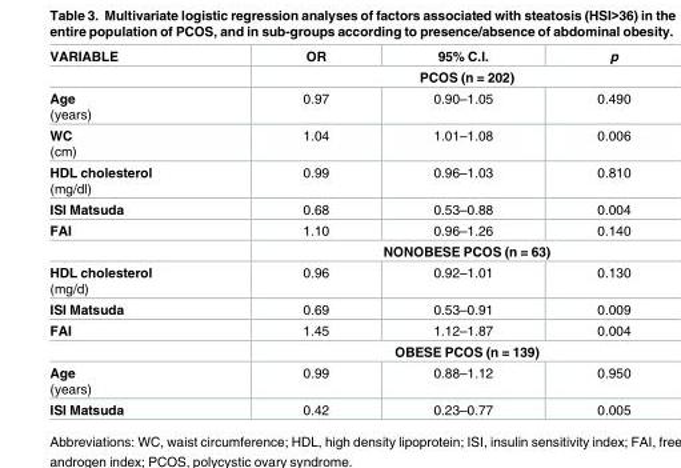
<table><thead><tr><td>VARIABLE</td><td>OR</td><td>95% C.I.</td><td>p</td></tr></thead><tbody><tr><td></td><td colspan="3">PCOS (n = 202)</td></tr><tr><td>Age (years)</td><td>0.97</td><td>0.90–1.05</td><td>0.490</td></tr><tr><td>WC (cm)</td><td>1.04</td><td>1.01–1.08</td><td>0.006</td></tr><tr><td>HDL cholesterol (mg/dl)</td><td>0.99</td><td>0.96–1.03</td><td>0.810</td></tr><tr><td>ISI Matsuda</td><td>0.68</td><td>0.53–0.88</td><td>0.004</td></tr><tr><td rowspan="2">FAI</td><td>1.10</td><td>0.96–1.26</td><td>0.140</td></tr><tr><td colspan="3">NONOBESE PCOS (n = 63)</td></tr><tr><td>HDL cholesterol (mg/d)</td><td>0.96</td><td>0.92–1.01</td><td>0.130</td></tr><tr><td>ISI Matsuda</td><td>0.69</td><td>0.53–0.91</td><td>0.009</td></tr><tr><td rowspan="2">FAI</td><td>1.45</td><td>1.12–1.87</td><td>0.004</td></tr><tr><td colspan="3">OBESE PCOS (n = 139)</td></tr><tr><td>Age (years)</td><td>0.99</td><td>0.88–1.12</td><td>0.950</td></tr><tr><td>ISI Matsuda</td><td>0.42</td><td>0.23–0.77</td><td>0.005</td></tr></tbody></table>